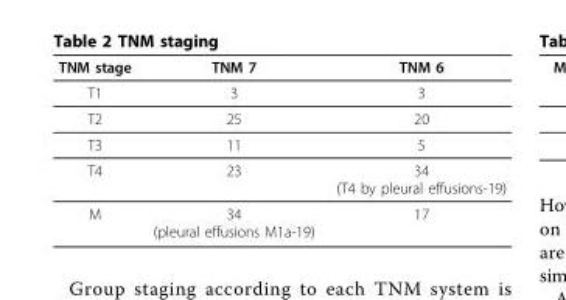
<table><thead><tr><td>TNM stage</td><td>TNM 7</td><td>TNM 6</td></tr></thead><tbody><tr><td>T1</td><td>3</td><td>3</td></tr><tr><td>T2</td><td>25</td><td>20</td></tr><tr><td>T3</td><td>11</td><td>5</td></tr><tr><td>T4</td><td>23</td><td>34 (T4 by pleural effusions-19)</td></tr><tr><td>M</td><td>34 (pleural effusions M1a-19)</td><td>17</td></tr></tbody></table>